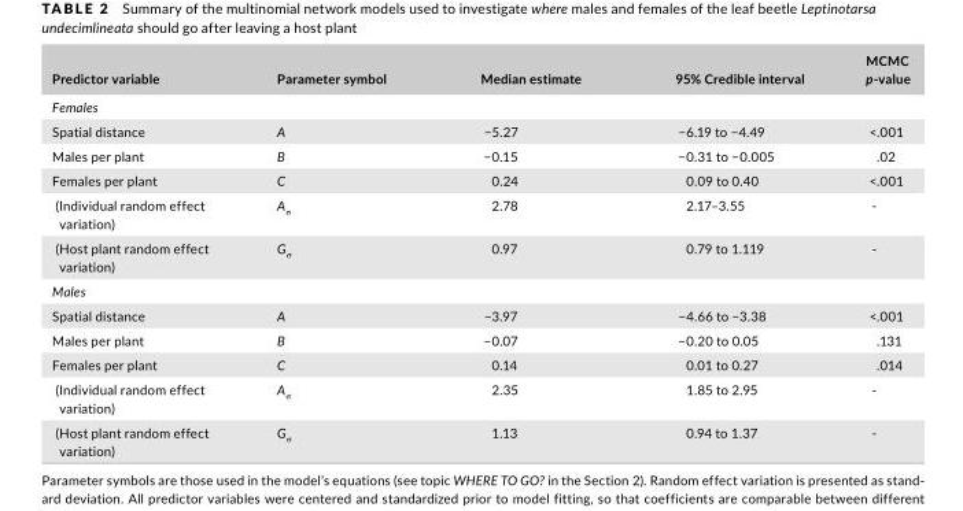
<table><thead><tr><td>Predictor variable</td><td>Parameter symbol</td><td>Median estimate</td><td>95% Credible interval</td><td>MCMC p- value</td></tr></thead><tbody><tr><td colspan="5">Females</td></tr><tr><td>Spatial distance</td><td>A</td><td>−5.27</td><td>−6.19 to −4.49</td><td>&lt;.001</td></tr><tr><td>Males per plant</td><td>B</td><td>−0.15</td><td>−0.31 to −0.005</td><td>.02</td></tr><tr><td>Females per plant</td><td>C</td><td>0.24</td><td>0.09 to 0.40</td><td>&lt;.001</td></tr><tr><td>(Individual random effect variation)</td><td>A<sub>σ</sub></td><td>2.78</td><td>2.17–3.55</td><td>-</td></tr><tr><td>(Host plant random effect variation)</td><td>G<sub>σ</sub></td><td>0.97</td><td>0.79 to 1.119</td><td>-</td></tr><tr><td colspan="5">Males</td></tr><tr><td>Spatial distance</td><td>A</td><td>−3.97</td><td>−4.66 to −3.38</td><td>&lt;.001</td></tr><tr><td>Males per plant</td><td>B</td><td>−0.07</td><td>−0.20 to 0.05</td><td>.131</td></tr><tr><td>Females per plant</td><td>C</td><td>0.14</td><td>0.01 to 0.27</td><td>.014</td></tr><tr><td>(Individual random effect variation)</td><td>A<sub>σ</sub></td><td>2.35</td><td>1.85 to 2.95</td><td>-</td></tr><tr><td>(Host plant random effect variation)</td><td>G<sub>σ</sub></td><td>1.13</td><td>0.94 to 1.37</td><td>-</td></tr></tbody></table>